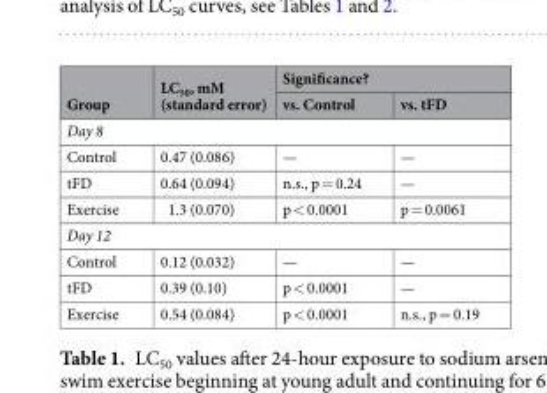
<table><thead><tr><td rowspan="2">Group</td><td rowspan="2">LC<sub>50</sub>, mM (standard error)</td><td colspan="2">Significance?</td></tr><tr><td>vs. Control</td><td>vs. tFD</td></tr></thead><tbody><tr><td colspan="4">Day 8</td></tr><tr><td>Control</td><td>0.47 (0.086)</td><td>—</td><td>—</td></tr><tr><td>tFD</td><td>0.64 (0.094)</td><td>n.s., p = 0.24</td><td>—</td></tr><tr><td>Exercise</td><td>1.3 (0.070)</td><td>p &lt; 0.0001</td><td>p = 0.0061</td></tr><tr><td colspan="4">Day 12</td></tr><tr><td>Control</td><td>0.12 (0.032)</td><td>—</td><td>—</td></tr><tr><td>tFD</td><td>0.39 (0.10)</td><td>p &lt; 0.0001</td><td>—</td></tr><tr><td>Exercise</td><td>0.54 (0.084)</td><td>p &lt; 0.0001</td><td>n.s., p = 0.19</td></tr></tbody></table>